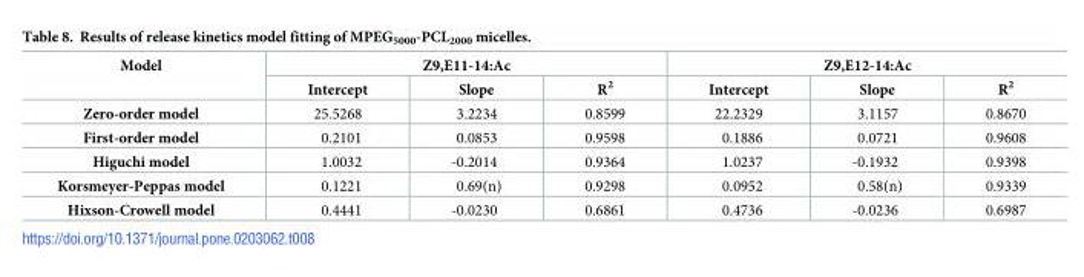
<table><thead><tr><td rowspan="2">Model</td><td colspan="3">Z9,E11-14:Ac</td><td colspan="3">Z9,E12-14:Ac</td></tr><tr><td>Intercept</td><td>Slope</td><td>R<sup>2</sup></td><td>Intercept</td><td>Slope</td><td>R<sup>2</sup></td></tr></thead><tbody><tr><td>Zero-order model</td><td>25.5268</td><td>3.2234</td><td>0.8599</td><td>22.2329</td><td>3.1157</td><td>0.8670</td></tr><tr><td>First-order model</td><td>0.2101</td><td>0.0853</td><td>0.9598</td><td>0.1886</td><td>0.0721</td><td>0.9608</td></tr><tr><td>Higuchi model</td><td>1.0032</td><td>-0.2014</td><td>0.9364</td><td>1.0237</td><td>-0.1932</td><td>0.9398</td></tr><tr><td>Korsmeyer-Peppas model</td><td>0.1221</td><td>0.69(n)</td><td>0.9298</td><td>0.0952</td><td>0.58(n)</td><td>0.9339</td></tr><tr><td>Hixson-Crowell model</td><td>0.4441</td><td>-0.0230</td><td>0.6861</td><td>0.4736</td><td>-0.0236</td><td>0.6987</td></tr></tbody></table>